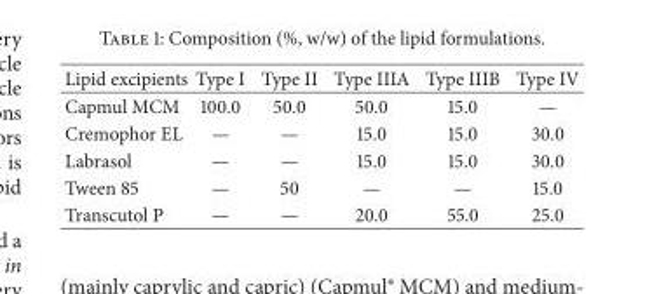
<table><thead><tr><td>Lipid excipients</td><td>Type I</td><td>Type II</td><td>Type IIIA</td><td>Type IIIB</td><td>Type IV</td></tr></thead><tbody><tr><td>Capmul MCM</td><td>100.0</td><td>50.0</td><td>50.0</td><td>15.0</td><td>—</td></tr><tr><td>Cremophor EL</td><td>—</td><td>—</td><td>15.0</td><td>15.0</td><td>30.0</td></tr><tr><td>Labrasol</td><td>—</td><td>—</td><td>15.0</td><td>15.0</td><td>30.0</td></tr><tr><td>Tween 85</td><td>—</td><td>50</td><td>—</td><td>—</td><td>15.0</td></tr><tr><td>Transcutol P</td><td>—</td><td>—</td><td>20.0</td><td>55.0</td><td>25.0</td></tr></tbody></table>